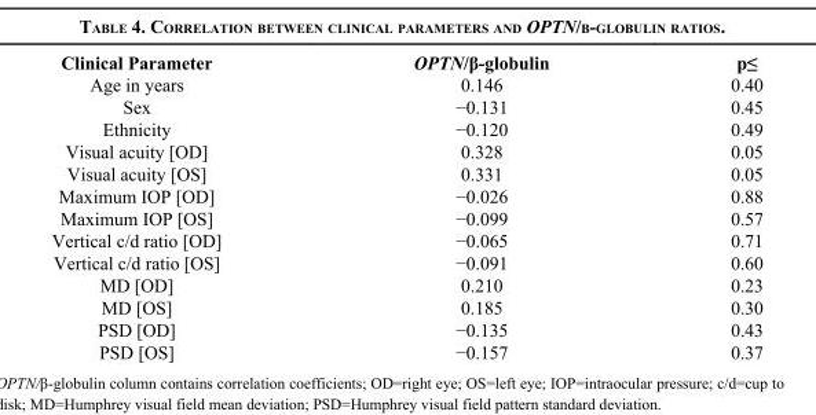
<table><thead><tr><td>Clinical Parameter</td><td>OPTN/β-globulin</td><td>p≤</td></tr></thead><tbody><tr><td>Age in years</td><td>0.146</td><td>0.40</td></tr><tr><td>Sex</td><td>−0.131</td><td>0.45</td></tr><tr><td>Ethnicity</td><td>−0.120</td><td>0.49</td></tr><tr><td>Visual acuity [OD]</td><td>0.328</td><td>0.05</td></tr><tr><td>Visual acuity [OS]</td><td>0.331</td><td>0.05</td></tr><tr><td>Maximum IOP [OD]</td><td>−0.026</td><td>0.88</td></tr><tr><td>Maximum IOP [OS]</td><td>−0.099</td><td>0.57</td></tr><tr><td>Vertical c/d ratio [OD]</td><td>−0.065</td><td>0.71</td></tr><tr><td>Vertical c/d ratio [OS]</td><td>−0.091</td><td>0.60</td></tr><tr><td>MD [OD]</td><td>0.210</td><td>0.23</td></tr><tr><td>MD [OS]</td><td>0.185</td><td>0.30</td></tr><tr><td>PSD [OD]</td><td>−0.135</td><td>0.43</td></tr><tr><td>PSD [OS]</td><td>−0.157</td><td>0.37</td></tr></tbody></table>